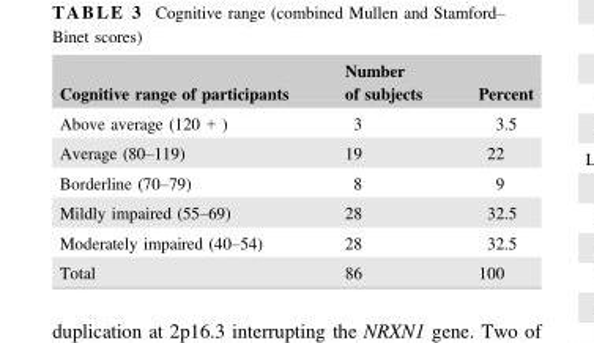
<table><thead><tr><td>Cognitive range of participants</td><td>Number of subjects</td><td>Percent</td></tr></thead><tbody><tr><td>Above average (120 + )</td><td>3</td><td>3.5</td></tr><tr><td>Average (80–119)</td><td>19</td><td>22</td></tr><tr><td>Borderline (70–79)</td><td>8</td><td>9</td></tr><tr><td>Mildly impaired (55–69)</td><td>28</td><td>32.5</td></tr><tr><td>Moderately impaired (40–54)</td><td>28</td><td>32.5</td></tr><tr><td>Total</td><td>86</td><td>100</td></tr></tbody></table>